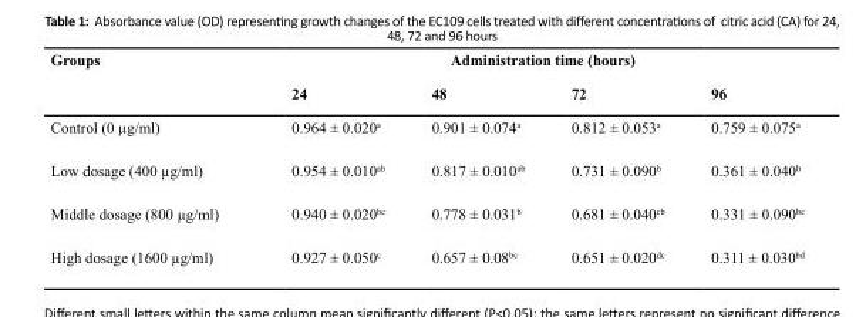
<table><thead><tr><td rowspan="2">Groups</td><td colspan="4">Administration time (hours)</td></tr><tr><td>24</td><td>48</td><td>72</td><td>96</td></tr></thead><tbody><tr><td>Control (0 µg/ml)</td><td>0.964 ± 0.020<sup>a</sup></td><td>0.901 ± 0.074<sup>a</sup></td><td>0.812 ± 0.053<sup>a</sup></td><td>0.759 ± 0.075<sup>a</sup></td></tr><tr><td>Low dosage (400 µg/ml)</td><td>0.954 ± 0.010<sup>ab</sup></td><td>0.817 ± 0.010<sup>ab</sup></td><td>0.731 ± 0.090<sup>b</sup></td><td>0.361 ± 0.040<sup>b</sup></td></tr><tr><td>Middle dosage (800 µg/ml)</td><td>0.940 ± 0.020<sup>bc</sup></td><td>0.778 ± 0.031<sup>b</sup></td><td>0.681 ± 0.040<sup>cb</sup></td><td>0.331 ± 0.090<sup>bc</sup></td></tr><tr><td>High dosage (1600 µg/ml)</td><td>0.927 ± 0.050<sup>c</sup></td><td>0.657 ± 0.08<sup>bc</sup></td><td>0.651 ± 0.020<sup>dc</sup></td><td>0.311 ± 0.030<sup>bd</sup></td></tr></tbody></table>